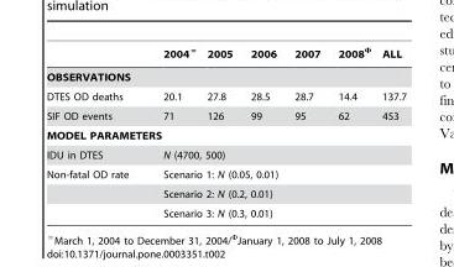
<table><thead><tr><td></td><td>2004 <sup>=</sup></td><td>2005</td><td>2006</td><td>2007</td><td>2008<sup>Φ</sup></td><td>ALL</td></tr></thead><tbody><tr><td colspan="7">OBSERVATIONS</td></tr><tr><td>DTES OD deaths</td><td>20.1</td><td>27.8</td><td>28.5</td><td>28.7</td><td>14.4</td><td>137.7</td></tr><tr><td>SIF OD events</td><td>71</td><td>126</td><td>99</td><td>95</td><td>62</td><td>453</td></tr><tr><td colspan="7">MODEL PARAMETERS</td></tr><tr><td>IDU in DTES</td><td colspan="6">N (4700, 500)</td></tr><tr><td rowspan="3">Non-fatal OD rate</td><td colspan="6">Scenario 1: N (0.05, 0.01)</td></tr><tr><td colspan="6">Scenario 2: N (0.2, 0.01)</td></tr><tr><td colspan="6">Scenario 3: N (0.3, 0.01)</td></tr></tbody></table>